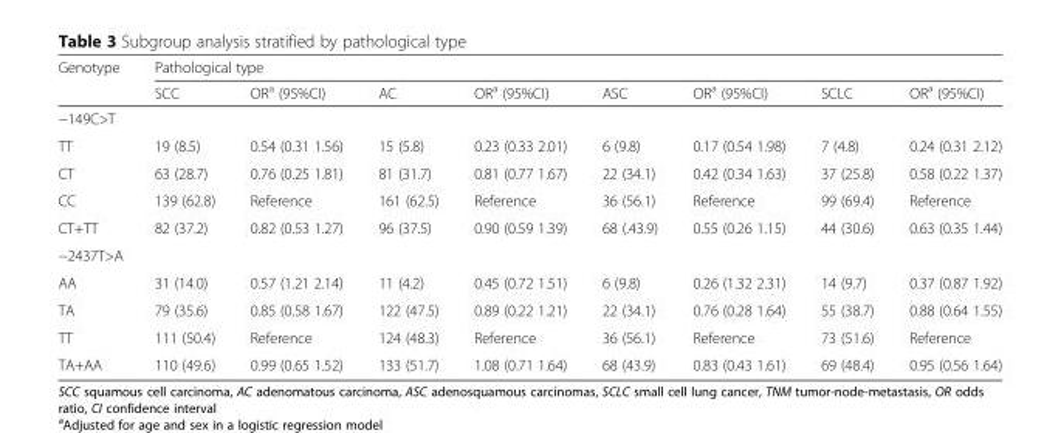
<table><thead><tr><td rowspan="2">Genotype</td><td colspan="8">Pathological type</td></tr><tr><td>SCC</td><td>OR<sup>a</sup> (95%CI)</td><td>AC</td><td>OR<sup>a</sup> (95%CI)</td><td>ASC</td><td>OR<sup>a</sup> (95%CI)</td><td>SCLC</td><td>OR<sup>a</sup> (95%CI)</td></tr></thead><tbody><tr><td colspan="9">−149C&gt;T</td></tr><tr><td>TT</td><td>19 (8.5)</td><td>0.54 (0.31 1.56)</td><td>15 (5.8)</td><td>0.23 (0.33 2.01)</td><td>6 (9.8)</td><td>0.17 (0.54 1.98)</td><td>7 (4.8)</td><td>0.24 (0.31 2.12)</td></tr><tr><td>CT</td><td>63 (28.7)</td><td>0.76 (0.25 1.81)</td><td>81 (31.7)</td><td>0.81 (0.77 1.67)</td><td>22 (34.1)</td><td>0.42 (0.34 1.63)</td><td>37 (25.8)</td><td>0.58 (0.22 1.37)</td></tr><tr><td>CC</td><td>139 (62.8)</td><td>Reference</td><td>161 (62.5)</td><td>Reference</td><td>36 (56.1)</td><td>Reference</td><td>99 (69.4)</td><td>Reference</td></tr><tr><td>CT+TT</td><td>82 (37.2)</td><td>0.82 (0.53 1.27)</td><td>96 (37.5)</td><td>0.90 (0.59 1.39)</td><td>68 (.43.9)</td><td>0.55 (0.26 1.15)</td><td>44 (30.6)</td><td>0.63 (0.35 1.44)</td></tr><tr><td colspan="9">−2437T&gt;A</td></tr><tr><td>AA</td><td>31 (14.0)</td><td>0.57 (1.21 2.14)</td><td>11 (4.2)</td><td>0.45 (0.72 1.51)</td><td>6 (9.8)</td><td>0.26 (1.32 2.31)</td><td>14 (9.7)</td><td>0.37 (0.87 1.92)</td></tr><tr><td>TA</td><td>79 (35.6)</td><td>0.85 (0.58 1.67)</td><td>122 (47.5)</td><td>0.89 (0.22 1.21)</td><td>22 (34.1)</td><td>0.76 (0.28 1.64)</td><td>55 (38.7)</td><td>0.88 (0.64 1.55)</td></tr><tr><td>TT</td><td>111 (50.4)</td><td>Reference</td><td>124 (48.3)</td><td>Reference</td><td>36 (56.1)</td><td>Reference</td><td>73 (51.6)</td><td>Reference</td></tr><tr><td>TA+AA</td><td>110 (49.6)</td><td>0.99 (0.65 1.52)</td><td>133 (51.7)</td><td>1.08 (0.71 1.64)</td><td>68 (43.9)</td><td>0.83 (0.43 1.61)</td><td>69 (48.4)</td><td>0.95 (0.56 1.64)</td></tr></tbody></table>